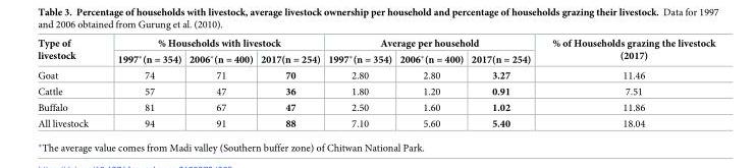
<table><thead><tr><td rowspan="2">Type of livestock</td><td colspan="3">% Households with livestock</td><td colspan="3">Average per household</td><td rowspan="2">% of Households grazing the livestock (2017)</td></tr><tr><td>1997*(n = 354)</td><td>2006*(n = 400)</td><td>2017(n = 254)</td><td>1997*(n = 354)</td><td>2006*(n = 400)</td><td>2017(n = 254)</td></tr></thead><tbody><tr><td>Goat</td><td>74</td><td>71</td><td>70</td><td>2.80</td><td>2.80</td><td>3.27</td><td>11.46</td></tr><tr><td>Cattle</td><td>57</td><td>47</td><td>36</td><td>1.80</td><td>1.20</td><td>0.91</td><td>7.51</td></tr><tr><td>Buffalo</td><td>81</td><td>67</td><td>47</td><td>2.50</td><td>1.60</td><td>1.02</td><td>11.86</td></tr><tr><td>All livestock</td><td>94</td><td>91</td><td>88</td><td>7.10</td><td>5.60</td><td>5.40</td><td>18.04</td></tr></tbody></table>